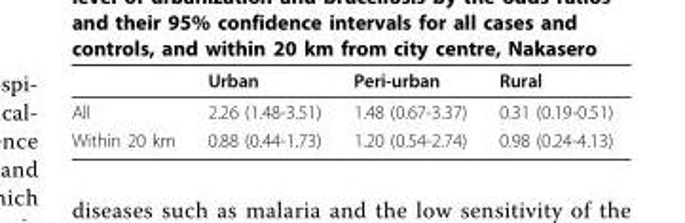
<table><thead><tr><td></td><td>Urban</td><td>Peri-urban</td><td>Rural</td></tr></thead><tbody><tr><td>All</td><td>2.26 (1.48-3.51)</td><td>1.48 (0.67-3.37)</td><td>0.31 (0.19-0.51)</td></tr><tr><td>Within 20 km</td><td>0.88 (0.44-1.73)</td><td>1.20 (0.54-2.74)</td><td>0.98 (0.24-4.13)</td></tr></tbody></table>